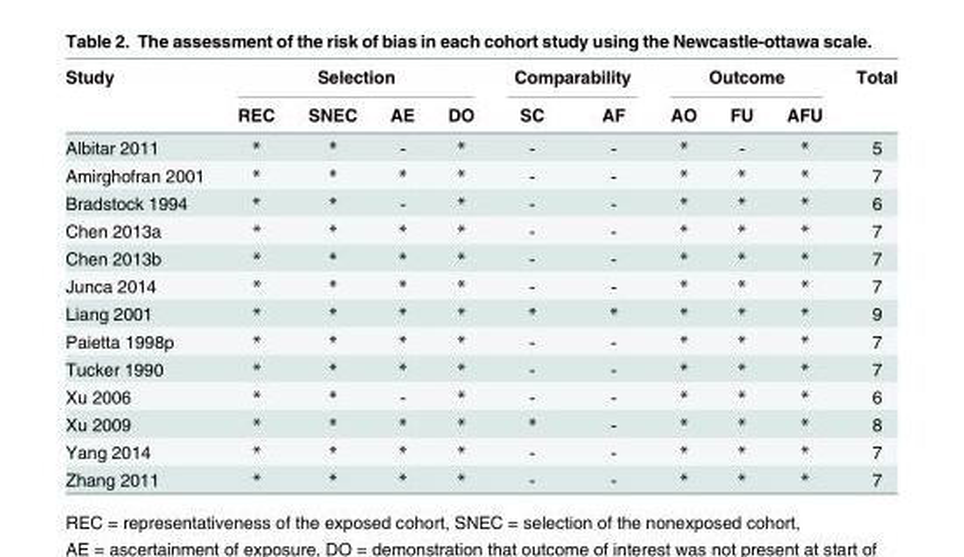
<table><thead><tr><td rowspan="2">Study</td><td colspan="4">Selection</td><td colspan="2">Comparability</td><td colspan="3">Outcome</td><td rowspan="2">Total</td></tr><tr><td>REC</td><td>SNEC</td><td>AE</td><td>DO</td><td>SC</td><td>AF</td><td>AO</td><td>FU</td><td>AFU</td></tr></thead><tbody><tr><td>Albitar 2011</td><td>*</td><td>*</td><td>-</td><td>*</td><td>-</td><td>-</td><td>*</td><td>-</td><td>*</td><td>5</td></tr><tr><td>Amirghofran 2001</td><td>*</td><td>*</td><td>*</td><td>*</td><td>-</td><td>-</td><td>*</td><td>*</td><td>*</td><td>7</td></tr><tr><td>Bradstock 1994</td><td>*</td><td>*</td><td>-</td><td>*</td><td>-</td><td>-</td><td>*</td><td>*</td><td>*</td><td>6</td></tr><tr><td>Chen 2013a</td><td>*</td><td>*</td><td>*</td><td>*</td><td>-</td><td>-</td><td>*</td><td>*</td><td>*</td><td>7</td></tr><tr><td>Chen 2013b</td><td>*</td><td>*</td><td>*</td><td>*</td><td>-</td><td>-</td><td>*</td><td>*</td><td>*</td><td>7</td></tr><tr><td>Junca 2014</td><td>*</td><td>*</td><td>*</td><td>*</td><td>-</td><td>-</td><td>*</td><td>*</td><td>*</td><td>7</td></tr><tr><td>Liang 2001</td><td>*</td><td>*</td><td>*</td><td>*</td><td>*</td><td>*</td><td>*</td><td>*</td><td>*</td><td>9</td></tr><tr><td>Paietta 1998p</td><td>*</td><td>*</td><td>*</td><td>*</td><td>-</td><td>-</td><td>*</td><td>*</td><td>*</td><td>7</td></tr><tr><td>Tucker 1990</td><td>*</td><td>*</td><td>*</td><td>*</td><td>-</td><td>-</td><td>*</td><td>*</td><td>*</td><td>7</td></tr><tr><td>Xu 2006</td><td>*</td><td>*</td><td>-</td><td>*</td><td>-</td><td>-</td><td>*</td><td>*</td><td>*</td><td>6</td></tr><tr><td>Xu 2009</td><td>*</td><td>*</td><td>*</td><td>*</td><td>*</td><td>-</td><td>*</td><td>*</td><td>*</td><td>8</td></tr><tr><td>Yang 2014</td><td>*</td><td>*</td><td>*</td><td>*</td><td>-</td><td>-</td><td>*</td><td>*</td><td>*</td><td>7</td></tr><tr><td>Zhang 2011</td><td>*</td><td>*</td><td>*</td><td>*</td><td>-</td><td>-</td><td>*</td><td>*</td><td>*</td><td>7</td></tr></tbody></table>